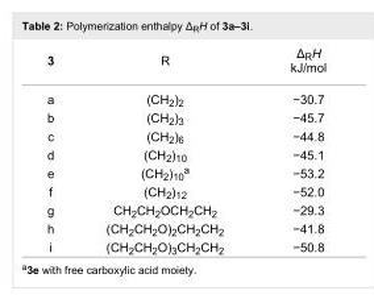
<table><tbody><tr><td>3</td><td>R</td><td>Δ<sub>R</sub>H kJ/mol</td></tr><tr><td>a</td><td>(CH<sub>2</sub>)<sub>2</sub></td><td>−30.7</td></tr><tr><td>b</td><td>(CH<sub>2</sub>)<sub>3</sub></td><td>−45.7</td></tr><tr><td>c</td><td>(CH<sub>2</sub>)<sub>6</sub></td><td>−44.8</td></tr><tr><td>d</td><td>(CH<sub>2</sub>)<sub>10</sub></td><td>−45.1</td></tr><tr><td>e</td><td>(CH<sub>2</sub>)<sub>10</sub><sup>a</sup></td><td>−53.2</td></tr><tr><td>f</td><td>(CH<sub>2</sub>)<sub>12</sub></td><td>−52.0</td></tr><tr><td>g</td><td>CH<sub>2</sub>CH<sub>2</sub>OCH<sub>2</sub>CH<sub>2</sub></td><td>−29.3</td></tr><tr><td>h</td><td>(CH<sub>2</sub>CH<sub>2</sub>O)<sub>2</sub>CH<sub>2</sub>CH<sub>2</sub></td><td>−41.8</td></tr><tr><td>i</td><td>(CH<sub>2</sub>CH<sub>2</sub>O)<sub>3</sub>CH<sub>2</sub>CH<sub>2</sub></td><td>−50.8</td></tr></tbody></table>